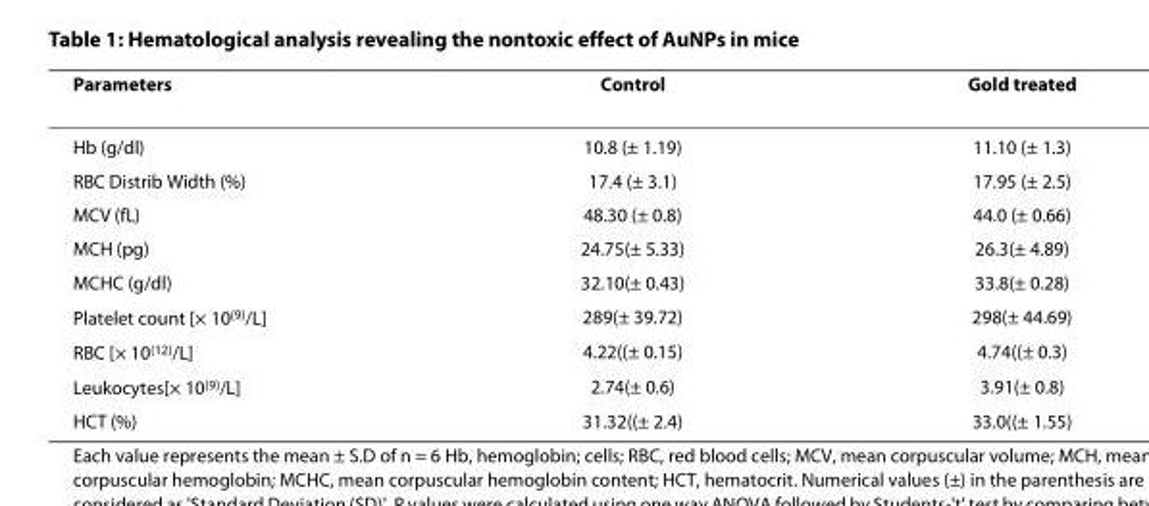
<table><thead><tr><td>Parameters</td><td>Control</td><td>Gold treated</td></tr></thead><tbody><tr><td>Hb (g/dl)</td><td>10.8 (± 1.19)</td><td>11.10 (± 1.3)</td></tr><tr><td>RBC Distrib Width (%)</td><td>17.4 (± 3.1)</td><td>17.95 (± 2.5)</td></tr><tr><td>MCV (fL)</td><td>48.30 (± 0.8)</td><td>44.0 (± 0.66)</td></tr><tr><td>MCH (pg)</td><td>24.75(± 5.33)</td><td>26.3(± 4.89)</td></tr><tr><td>MCHC (g/dl)</td><td>32.10(± 0.43)</td><td>33.8(± 0.28)</td></tr><tr><td>Platelet count [× 10<sup>(9)</sup>/L]</td><td>289(± 39.72)</td><td>298(± 44.69)</td></tr><tr><td>RBC [× 10<sup>(12)</sup>/L]</td><td>4.22((± 0.15)</td><td>4.74((± 0.3)</td></tr><tr><td>Leukocytes[× 10<sup>(9)</sup>/L]</td><td>2.74(± 0.6)</td><td>3.91(± 0.8)</td></tr><tr><td>HCT (%)</td><td>31.32((± 2.4)</td><td>33.0((± 1.55)</td></tr></tbody></table>